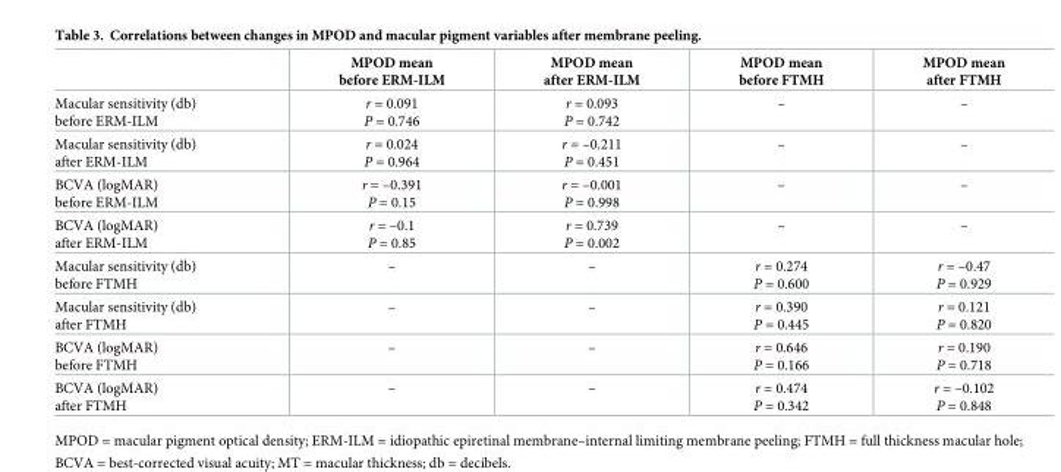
<table><thead><tr><td></td><td>MPOD mean before ERM-ILM</td><td>MPOD mean after ERM-ILM</td><td>MPOD mean before FTMH</td><td>MPOD mean after FTMH</td></tr></thead><tbody><tr><td>Macular sensitivity (db) before ERM-ILM</td><td>r = 0.091 P = 0.746</td><td>r = 0.093 P = 0.742</td><td>–</td><td>–</td></tr><tr><td>Macular sensitivity (db) after ERM-ILM</td><td>r = 0.024 P = 0.964</td><td>r = –0.211 P = 0.451</td><td>–</td><td>–</td></tr><tr><td>BCVA (logMAR) before ERM-ILM</td><td>r = –0.391 P = 0.15</td><td>r = –0.001 P = 0.998</td><td>–</td><td>–</td></tr><tr><td>BCVA (logMAR) after ERM-ILM</td><td>r = –0.1 P = 0.85</td><td>r = 0.739 P = 0.002</td><td>–</td><td>–</td></tr><tr><td>Macular sensitivity (db) before FTMH</td><td>–</td><td>–</td><td>r = 0.274 P = 0.600</td><td>r = –0.47 P = 0.929</td></tr><tr><td>Macular sensitivity (db) after FTMH</td><td>–</td><td>–</td><td>r = 0.390 P = 0.445</td><td>r = 0.121 P = 0.820</td></tr><tr><td>BCVA (logMAR) before FTMH</td><td>–</td><td>–</td><td>r = 0.646 P = 0.166</td><td>r = 0.190 P = 0.718</td></tr><tr><td>BCVA (logMAR) after FTMH</td><td>–</td><td>–</td><td>r = 0.474 P = 0.342</td><td>r = –0.102 P = 0.848</td></tr></tbody></table>